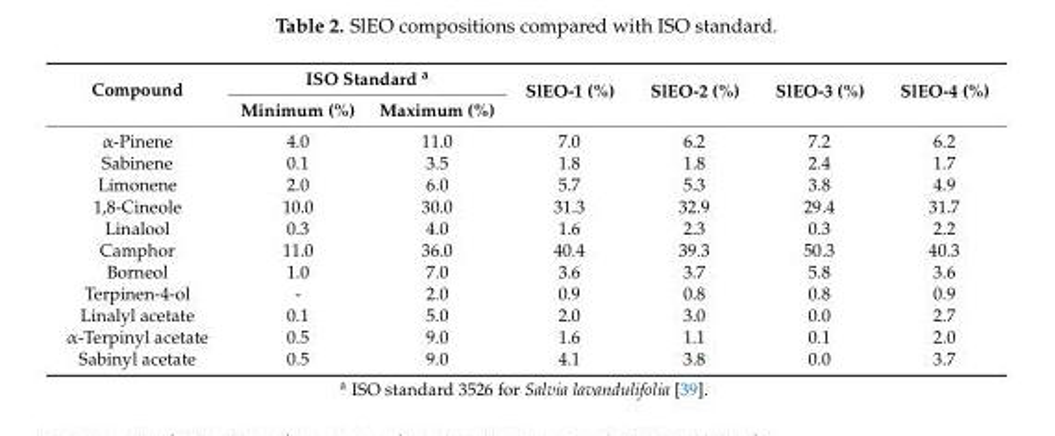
<table><thead><tr><td rowspan="2">Compound</td><td colspan="2">ISO Standard <sup>a</sup></td><td rowspan="2">SlEO-1 (%)</td><td rowspan="2">SlEO-2 (%)</td><td rowspan="2">SlEO-3 (%)</td><td rowspan="2">SlEO-4 (%)</td></tr><tr><td>Minimum (%)</td><td>Maximum (%)</td></tr></thead><tbody><tr><td>α-Pinene</td><td>4.0</td><td>11.0</td><td>7.0</td><td>6.2</td><td>7.2</td><td>6.2</td></tr><tr><td>Sabinene</td><td>0.1</td><td>3.5</td><td>1.8</td><td>1.8</td><td>2.4</td><td>1.7</td></tr><tr><td>Limonene</td><td>2.0</td><td>6.0</td><td>5.7</td><td>5.3</td><td>3.8</td><td>4.9</td></tr><tr><td>1,8-Cineole</td><td>10.0</td><td>30.0</td><td>31.3</td><td>32.9</td><td>29.4</td><td>31.7</td></tr><tr><td>Linalool</td><td>0.3</td><td>4.0</td><td>1.6</td><td>2.3</td><td>0.3</td><td>2.2</td></tr><tr><td>Camphor</td><td>11.0</td><td>36.0</td><td>40.4</td><td>39.3</td><td>50.3</td><td>40.3</td></tr><tr><td>Borneol</td><td>1.0</td><td>7.0</td><td>3.6</td><td>3.7</td><td>5.8</td><td>3.6</td></tr><tr><td>Terpinen-4-ol</td><td>-</td><td>2.0</td><td>0.9</td><td>0.8</td><td>0.8</td><td>0.9</td></tr><tr><td>Linalyl acetate</td><td>0.1</td><td>5.0</td><td>2.0</td><td>3.0</td><td>0.0</td><td>2.7</td></tr><tr><td>α-Terpinyl acetate</td><td>0.5</td><td>9.0</td><td>1.6</td><td>1.1</td><td>0.1</td><td>2.0</td></tr><tr><td>Sabinyl acetate</td><td>0.5</td><td>9.0</td><td>4.1</td><td>3.8</td><td>0.0</td><td>3.7</td></tr></tbody></table>